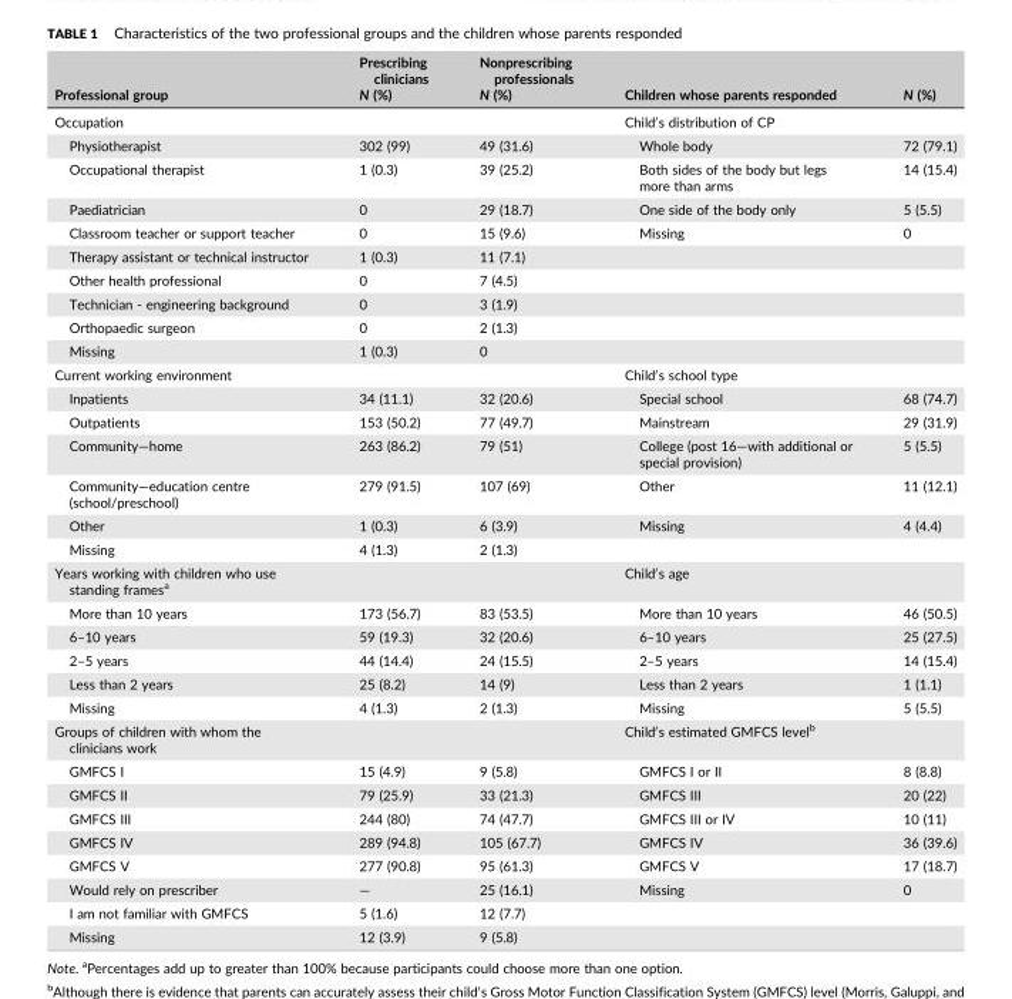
<table><thead><tr><td>Professional group</td><td>Prescribing clinicians N (%)</td><td>Nonprescribing professionals N (%)</td><td>Children whose parents responded</td><td>N (%)</td></tr></thead><tbody><tr><td>Occupation</td><td></td><td></td><td>Child0s distribution of CP</td><td></td></tr><tr><td>Physiotherapist</td><td>302 (99)</td><td>49 (31.6)</td><td>Whole body</td><td>72 (79.1)</td></tr><tr><td>Occupational therapist</td><td>1 (0.3)</td><td>39 (25.2)</td><td>Both sides of the body but legs more than arms</td><td>14 (15.4)</td></tr><tr><td>Paediatrician</td><td>0</td><td>29 (18.7)</td><td>One side of the body only</td><td>5 (5.5)</td></tr><tr><td>Classroom teacher or support teacher</td><td>0</td><td>15 (9.6)</td><td>Missing</td><td>0</td></tr><tr><td>Therapy assistant or technical instructor</td><td>1 (0.3)</td><td>11 (7.1)</td><td></td><td></td></tr><tr><td>Other health professional</td><td>0</td><td>7 (4.5)</td><td></td><td></td></tr><tr><td>Technician ‐ engineering background</td><td>0</td><td>3 (1.9)</td><td></td><td></td></tr><tr><td>Orthopaedic surgeon</td><td>0</td><td>2 (1.3)</td><td></td><td></td></tr><tr><td>Missing</td><td>1 (0.3)</td><td>0</td><td></td><td></td></tr><tr><td>Current working environment</td><td></td><td></td><td>Child0s school type</td><td></td></tr><tr><td>Inpatients</td><td>34 (11.1)</td><td>32 (20.6)</td><td>Special school</td><td>68 (74.7)</td></tr><tr><td>Outpatients</td><td>153 (50.2)</td><td>77 (49.7)</td><td>Mainstream</td><td>29 (31.9)</td></tr><tr><td>Community—home</td><td>263 (86.2)</td><td>79 (51)</td><td>College (post 16—with additional or special provision)</td><td>5 (5.5)</td></tr><tr><td>Community—education centre (school/preschool)</td><td>279 (91.5)</td><td>107 (69)</td><td>Other</td><td>11 (12.1)</td></tr><tr><td>Other</td><td>1 (0.3)</td><td>6 (3.9)</td><td>Missing</td><td>4 (4.4)</td></tr><tr><td>Missing</td><td>4 (1.3)</td><td>2 (1.3)</td><td></td><td></td></tr><tr><td>Years working with children who use standing frames<sup>a</sup></td><td></td><td></td><td>Child0s age</td><td></td></tr><tr><td>More than 10 years</td><td>173 (56.7)</td><td>83 (53.5)</td><td>More than 10 years</td><td>46 (50.5)</td></tr><tr><td>6–10 years</td><td>59 (19.3)</td><td>32 (20.6)</td><td>6–10 years</td><td>25 (27.5)</td></tr><tr><td>2–5 years</td><td>44 (14.4)</td><td>24 (15.5)</td><td>2–5 years</td><td>14 (15.4)</td></tr><tr><td>Less than 2 years</td><td>25 (8.2)</td><td>14 (9)</td><td>Less than 2 years</td><td>1 (1.1)</td></tr><tr><td>Missing</td><td>4 (1.3)</td><td>2 (1.3)</td><td>Missing</td><td>5 (5.5)</td></tr><tr><td>Groups of children with whom the clinicians work</td><td></td><td></td><td>Child0s estimated GMFCS levelb</td><td></td></tr><tr><td>GMFCS I</td><td>15 (4.9)</td><td>9 (5.8)</td><td>GMFCS I or II</td><td>8 (8.8)</td></tr><tr><td>GMFCS II</td><td>79 (25.9)</td><td>33 (21.3)</td><td>GMFCS III</td><td>20 (22)</td></tr><tr><td>GMFCS III</td><td>244 (80)</td><td>74 (47.7)</td><td>GMFCS III or IV</td><td>10 (11)</td></tr><tr><td>GMFCS IV</td><td>289 (94.8)</td><td>105 (67.7)</td><td>GMFCS IV</td><td>36 (39.6)</td></tr><tr><td>GMFCS V</td><td>277 (90.8)</td><td>95 (61.3)</td><td>GMFCS V</td><td>17 (18.7)</td></tr><tr><td>Would rely on prescriber</td><td>—</td><td>25 (16.1)</td><td>Missing</td><td>0</td></tr><tr><td>I am not familiar with GMFCS</td><td>5 (1.6)</td><td>12 (7.7)</td><td></td><td></td></tr><tr><td>Missing</td><td>12 (3.9)</td><td>9 (5.8)</td><td></td><td></td></tr></tbody></table>